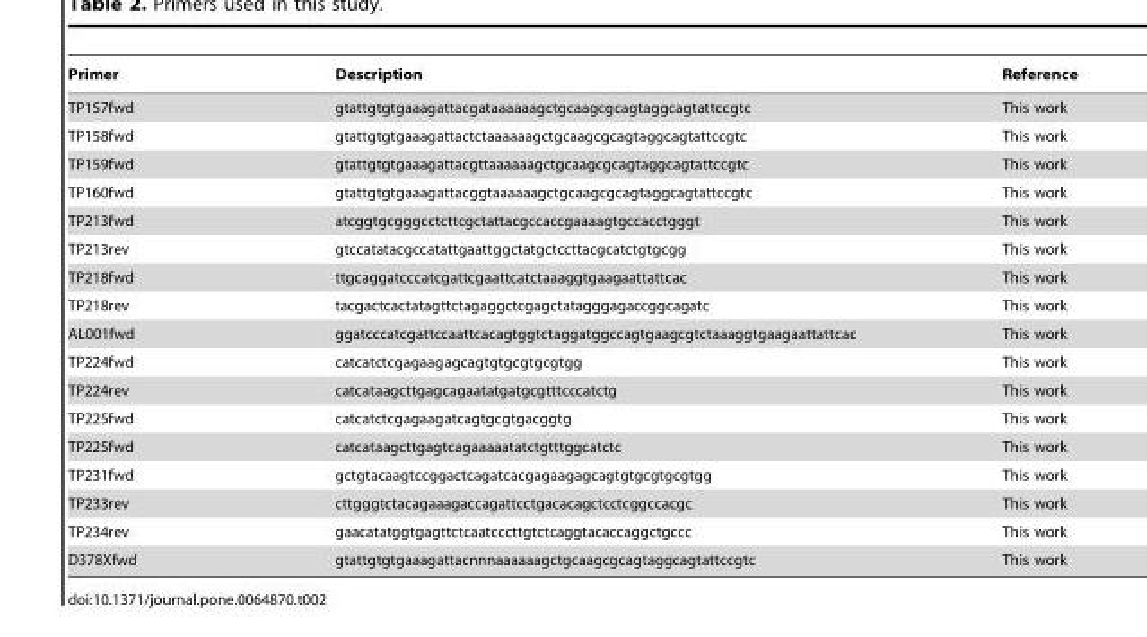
<table><thead><tr><td>Primer</td><td>Description</td><td>Reference</td></tr></thead><tbody><tr><td>TP157fwd</td><td>gtattgtgtgaaagattacgataaaaaagctgcaagcgcagtaggcagtattccgtc</td><td>This work</td></tr><tr><td>TP158fwd</td><td>gtattgtgtgaaagattactctaaaaaagctgcaagcgcagtaggcagtattccgtc</td><td>This work</td></tr><tr><td>TP159fwd</td><td>gtattgtgtgaaagattacgttaaaaaagctgcaagcgcagtaggcagtattccgtc</td><td>This work</td></tr><tr><td>TP160fwd</td><td>gtattgtgtgaaagattacggtaaaaaagctgcaagcgcagtaggcagtattccgtc</td><td>This work</td></tr><tr><td>TP213fwd</td><td>atcggtgcgggcctcttcgctattacgccaccgaaaagtgccacctgggt</td><td>This work</td></tr><tr><td>TP213rev</td><td>gtccatatacgccatattgaattggctatgctccttacgcatctgtgcgg</td><td>This work</td></tr><tr><td>TP218fwd</td><td>ttgcaggatcccatcgattcgaattcatctaaaggtgaagaattattcac</td><td>This work</td></tr><tr><td>TP218rev</td><td>tacgactcactatagttctagaggctcgagctatagggagaccggcagatc</td><td>This work</td></tr><tr><td>AL001fwd</td><td>ggatcccatcgattccaattcacagtggtctaggatggccagtgaagcgtctaaaggtgaagaattattcac</td><td>This work</td></tr><tr><td>TP224fwd</td><td>catcatctcgagaagagcagtgtgcgtgcgtgg</td><td>This work</td></tr><tr><td>TP224rev</td><td>catcataagcttgagcagaatatgatgcgtttcccatctg</td><td>This work</td></tr><tr><td>TP225fwd</td><td>catcatctcgagaagatcagtgcgtgacggtg</td><td>This work</td></tr><tr><td>TP225fwd</td><td>catcataagcttgagtcagaaaaatatctgtttggcatctc</td><td>This work</td></tr><tr><td>TP231fwd</td><td>gctgtacaagtccggactcagatcacgagaagagcagtgtgcgtgcgtgg</td><td>This work</td></tr><tr><td>TP233rev</td><td>cttgggtctacagaaagaccagattcctgacacagctcctcggccacgc</td><td>This work</td></tr><tr><td>TP234rev</td><td>gaacatatggtgagttctcaatcccttgtctcaggtacaccaggctgccc</td><td>This work</td></tr><tr><td>D378Xfwd</td><td>gtattgtgtgaaagattacnnnaaaaaagctgcaagcgcagtaggcagtattccgtc</td><td>This work</td></tr></tbody></table>